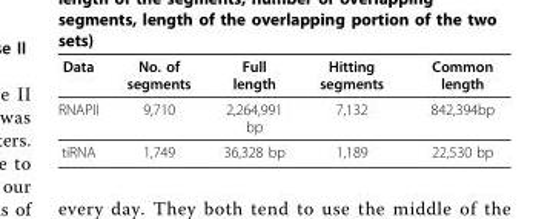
<table><thead><tr><td>Data</td><td>No. of segments</td><td>Full length</td><td>Hitting segments</td><td>Common length</td></tr></thead><tbody><tr><td>RNAPII</td><td>9,710</td><td>2,264,991 bp</td><td>7,132</td><td>842,394bp</td></tr><tr><td>tiRNA</td><td>1,749</td><td>36,328 bp</td><td>1,189</td><td>22,530 bp</td></tr></tbody></table>